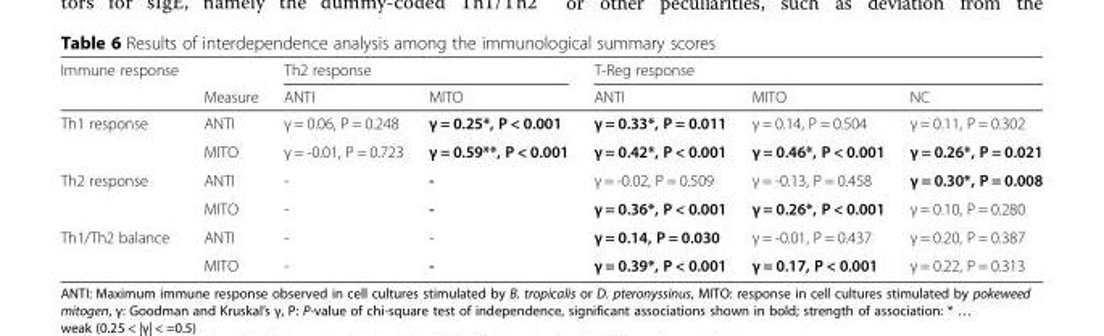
<table><thead><tr><td rowspan="2">Immune response</td><td rowspan="2">Measure</td><td colspan="2">Th2 response</td><td colspan="3">T-Reg response</td></tr><tr><td>ANTI</td><td>MITO</td><td>ANTI</td><td>MITO</td><td>NC</td></tr></thead><tbody><tr><td rowspan="2">Th1 response</td><td>ANTI</td><td>γ = 0.06, P = 0.248</td><td>γ = 0.25*, P &lt; 0.001</td><td>γ = 0.33*, P = 0.011</td><td>γ = 0.14, P = 0.504</td><td>γ = 0.11, P = 0.302</td></tr><tr><td>MITO</td><td>γ = -0.01, P = 0.723</td><td>γ = 0.59**, P &lt; 0.001</td><td>γ = 0.42*, P &lt; 0.001</td><td>γ = 0.46*, P &lt; 0.001</td><td>γ = 0.26*, P = 0.021</td></tr><tr><td rowspan="2">Th2 response</td><td>ANTI</td><td>-</td><td>-</td><td>γ = -0.02, P = 0.509</td><td>γ = -0.13, P = 0.458</td><td>γ = 0.30*, P = 0.008</td></tr><tr><td>MITO</td><td>-</td><td>-</td><td>γ = 0.36*, P &lt; 0.001</td><td>γ = 0.26*, P &lt; 0.001</td><td>γ = 0.10, P = 0.280</td></tr><tr><td rowspan="2">Th1/Th2 balance</td><td>ANTI</td><td>-</td><td>-</td><td>γ = 0.14, P = 0.030</td><td>γ = -0.01, P = 0.437</td><td>γ = 0.20, P = 0.387</td></tr><tr><td>MITO</td><td>-</td><td>-</td><td>γ = 0.39*, P &lt; 0.001</td><td>γ = 0.17, P &lt; 0.001</td><td>γ = 0.22, P = 0.313</td></tr></tbody></table>